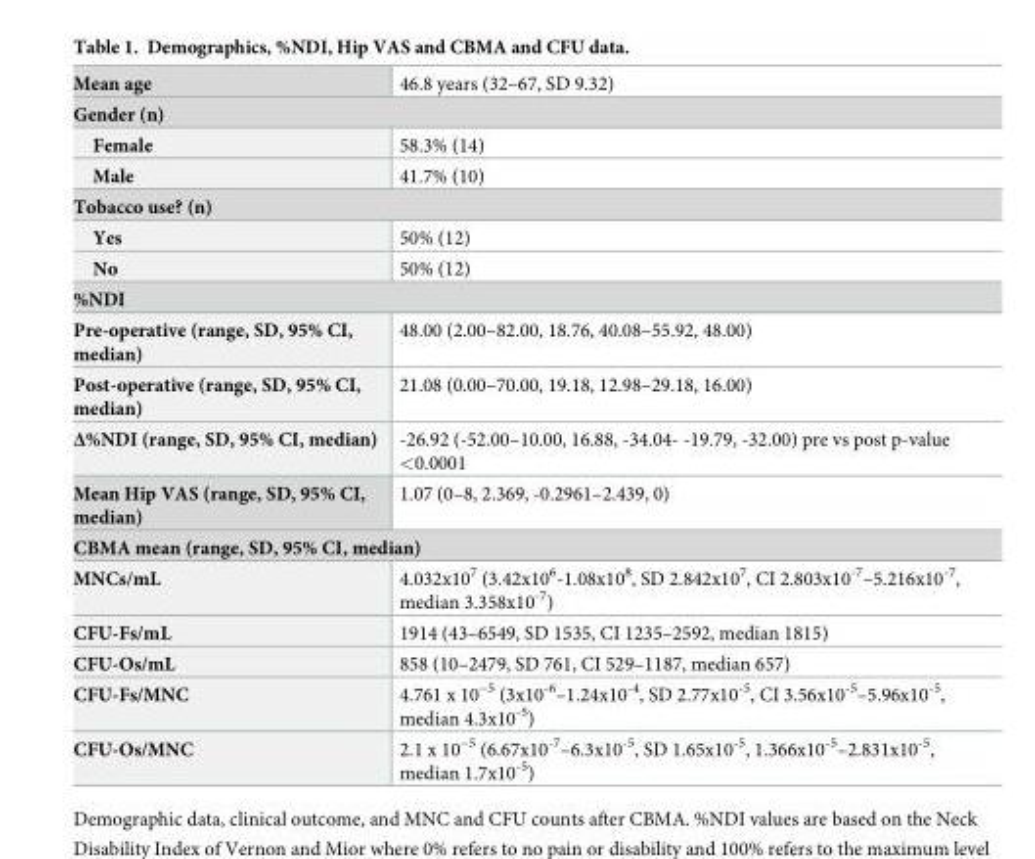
<table><tbody><tr><td>Mean age</td><td>46.8 years (32–67, SD 9.32)</td></tr><tr><td colspan="2">Gender (n)</td></tr><tr><td>Female</td><td>58.3% (14)</td></tr><tr><td>Male</td><td>41.7% (10)</td></tr><tr><td colspan="2">Tobacco use? (n)</td></tr><tr><td>Yes</td><td>50% (12)</td></tr><tr><td>No</td><td>50% (12)</td></tr><tr><td colspan="2">%NDI</td></tr><tr><td>Pre-operative (range, SD, 95% CI, median)</td><td>48.00 (2.00–82.00, 18.76, 40.08–55.92, 48.00)</td></tr><tr><td>Post-operative (range, SD, 95% CI, median)</td><td>21.08 (0.00–70.00, 19.18, 12.98–29.18, 16.00)</td></tr><tr><td>Δ%NDI (range, SD, 95% CI, median)</td><td>-26.92 (-52.00–10.00, 16.88, -34.04- -19.79, -32.00) pre vs post p-value &lt;0.0001</td></tr><tr><td>Mean Hip VAS (range, SD, 95% CI, median)</td><td>1.07 (0–8, 2.369, -0.2961–2.439, 0)</td></tr><tr><td colspan="2">CBMA mean (range, SD, 95% CI, median)</td></tr><tr><td>MNCs/mL</td><td>4.032x10<sup>7</sup> (3.42x10<sup>6</sup>-1.08x10<sup>8</sup>, SD 2.842x10<sup>7</sup>, CI 2.803x10<sup>-7</sup>–5.216x10<sup>-7</sup>, median 3.358x10<sup>-7</sup>)</td></tr><tr><td>CFU-Fs/mL</td><td>1914 (43–6549, SD 1535, CI 1235–2592, median 1815)</td></tr><tr><td>CFU-Os/mL</td><td>858 (10–2479, SD 761, CI 529–1187, median 657)</td></tr><tr><td>CFU-Fs/MNC</td><td>4.761 x 10<sup>−5</sup> (3x10<sup>-6</sup>–1.24x10<sup>-4</sup>, SD 2.77x10<sup>-5</sup>, CI 3.56x10<sup>-5</sup>–5.96x10<sup>-5</sup>, median 4.3x10<sup>-5</sup>)</td></tr><tr><td>CFU-Os/MNC</td><td>2.1 x 10<sup>−5</sup> (6.67x10<sup>-7</sup>–6.3x10<sup>-5</sup>, SD 1.65x10<sup>-5</sup>, 1.366x10<sup>-5</sup>–2.831x10<sup>-5</sup>, median 1.7x10<sup>-5</sup>)</td></tr></tbody></table>